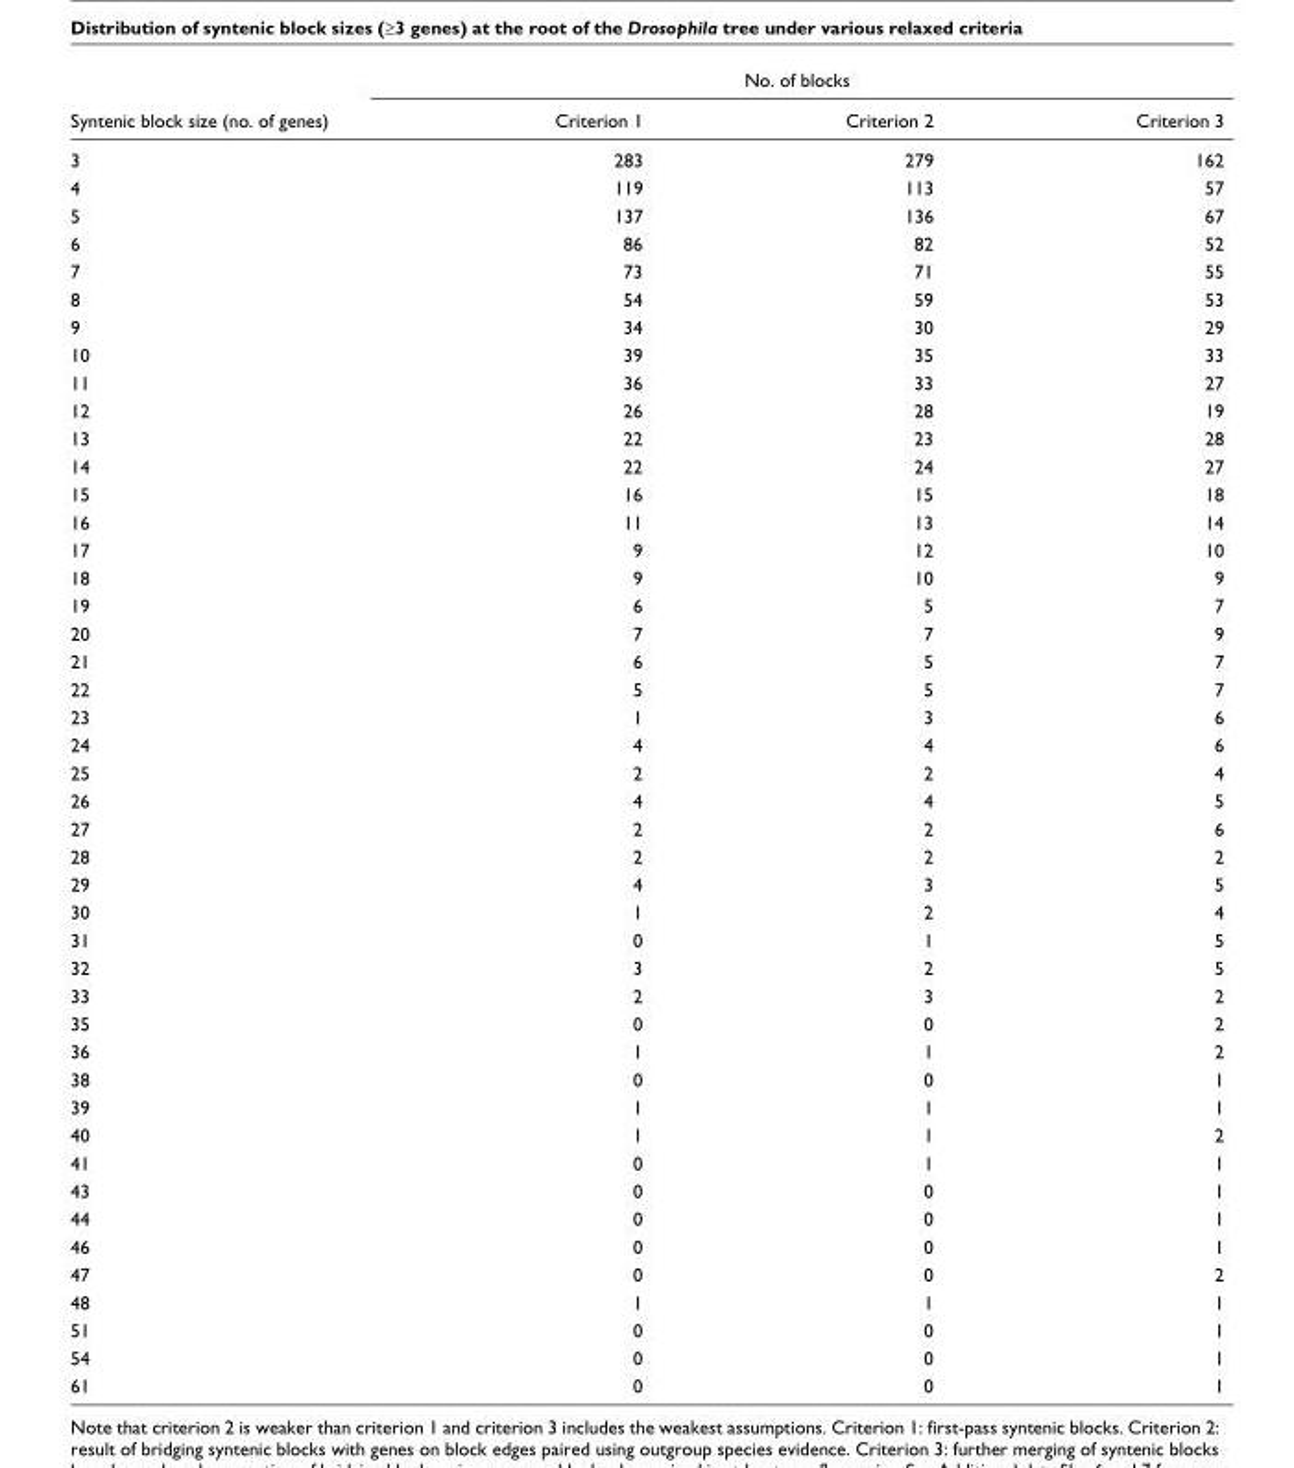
<table><thead><tr><td rowspan="2">Syntenic block size (no. of genes)</td><td colspan="3">No. of blocks</td></tr><tr><td>Criterion 1</td><td>Criterion 2</td><td>Criterion 3</td></tr></thead><tbody><tr><td>3</td><td>283</td><td>279</td><td>162</td></tr><tr><td>4</td><td>119</td><td>113</td><td>57</td></tr><tr><td>5</td><td>137</td><td>136</td><td>67</td></tr><tr><td>6</td><td>86</td><td>82</td><td>52</td></tr><tr><td>7</td><td>73</td><td>71</td><td>55</td></tr><tr><td>8</td><td>54</td><td>59</td><td>53</td></tr><tr><td>9</td><td>34</td><td>30</td><td>29</td></tr><tr><td>10</td><td>39</td><td>35</td><td>33</td></tr><tr><td>11</td><td>36</td><td>33</td><td>27</td></tr><tr><td>12</td><td>26</td><td>28</td><td>19</td></tr><tr><td>13</td><td>22</td><td>23</td><td>28</td></tr><tr><td>14</td><td>22</td><td>24</td><td>27</td></tr><tr><td>15</td><td>16</td><td>15</td><td>18</td></tr><tr><td>16</td><td>11</td><td>13</td><td>14</td></tr><tr><td>17</td><td>9</td><td>12</td><td>10</td></tr><tr><td>18</td><td>9</td><td>10</td><td>9</td></tr><tr><td>19</td><td>6</td><td>5</td><td>7</td></tr><tr><td>20</td><td>7</td><td>7</td><td>9</td></tr><tr><td>21</td><td>6</td><td>5</td><td>7</td></tr><tr><td>22</td><td>5</td><td>5</td><td>7</td></tr><tr><td>23</td><td>1</td><td>3</td><td>6</td></tr><tr><td>24</td><td>4</td><td>4</td><td>6</td></tr><tr><td>25</td><td>2</td><td>2</td><td>4</td></tr><tr><td>26</td><td>4</td><td>4</td><td>5</td></tr><tr><td>27</td><td>2</td><td>2</td><td>6</td></tr><tr><td>28</td><td>2</td><td>2</td><td>2</td></tr><tr><td>29</td><td>4</td><td>3</td><td>5</td></tr><tr><td>30</td><td>1</td><td>2</td><td>4</td></tr><tr><td>31</td><td>0</td><td>1</td><td>5</td></tr><tr><td>32</td><td>3</td><td>2</td><td>5</td></tr><tr><td>33</td><td>2</td><td>3</td><td>2</td></tr><tr><td>35</td><td>0</td><td>0</td><td>2</td></tr><tr><td>36</td><td>1</td><td>1</td><td>2</td></tr><tr><td>38</td><td>0</td><td>0</td><td>1</td></tr><tr><td>39</td><td>1</td><td>1</td><td>1</td></tr><tr><td>40</td><td>1</td><td>1</td><td>2</td></tr><tr><td>41</td><td>0</td><td>1</td><td>1</td></tr><tr><td>43</td><td>0</td><td>0</td><td>1</td></tr><tr><td>44</td><td>0</td><td>0</td><td>1</td></tr><tr><td>46</td><td>0</td><td>0</td><td>1</td></tr><tr><td>47</td><td>0</td><td>0</td><td>2</td></tr><tr><td>48</td><td>1</td><td>1</td><td>1</td></tr><tr><td>51</td><td>0</td><td>0</td><td>1</td></tr><tr><td>54</td><td>0</td><td>0</td><td>1</td></tr><tr><td>61</td><td>0</td><td>0</td><td>1</td></tr></tbody></table>